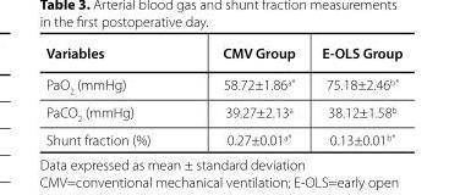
<table><thead><tr><td>Variables</td><td>CMV Group</td><td>E-OLS Group</td></tr></thead><tbody><tr><td>PaO<sub>2</sub> (mmHg)</td><td>58.72±1.86<sup>a*</sup></td><td>75.18±2.46<sup>b*</sup></td></tr><tr><td>PaCO<sub>2</sub> (mmHg)</td><td>39.27±2.13<sup>a</sup></td><td>38.12±1.58<sup>b</sup></td></tr><tr><td>Shunt fraction (%)</td><td>0.27±0.01<sup>a*</sup></td><td>0.13±0.01<sup>b*</sup></td></tr></tbody></table>